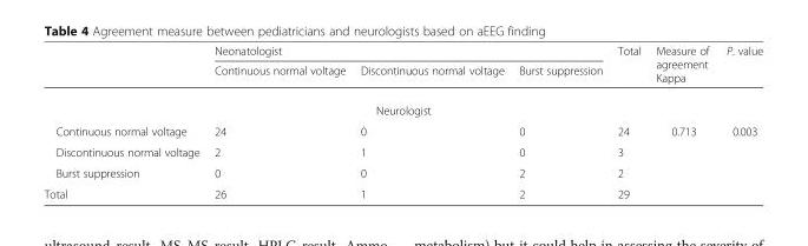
<table><thead><tr><td rowspan="2"></td><td colspan="3">Neonatologist</td><td rowspan="2">Total</td><td rowspan="2">Measure of agreement Kappa</td><td rowspan="2">P. value</td></tr><tr><td>Continuous normal voltage</td><td>Discontinuous normal voltage</td><td>Burst suppression</td></tr></thead><tbody><tr><td colspan="7">Neurologist</td></tr><tr><td>Continuous normal voltage</td><td>24</td><td>0</td><td>0</td><td>24</td><td rowspan="4">0.713</td><td rowspan="4">0.003</td></tr><tr><td>Discontinuous normal voltage</td><td>2</td><td>1</td><td>0</td><td>3</td></tr><tr><td>Burst suppression</td><td>0</td><td>0</td><td>2</td><td>2</td></tr><tr><td>Total</td><td>26</td><td>1</td><td>2</td><td>29</td></tr></tbody></table>